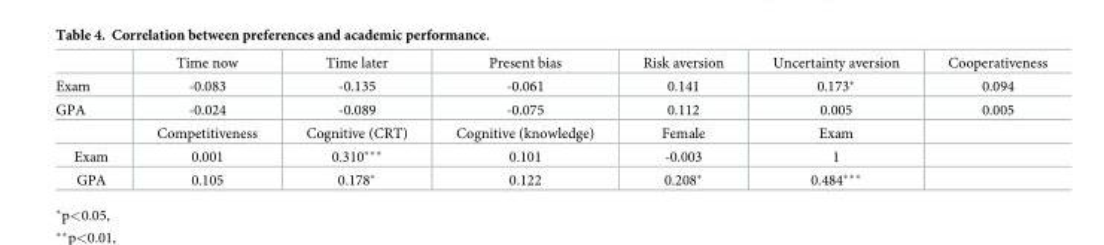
<table><thead><tr><td></td><td>Time now</td><td>Time later</td><td>Present bias</td><td>Risk aversion</td><td>Uncertainty aversion</td><td>Cooperativeness</td></tr></thead><tbody><tr><td>Exam</td><td>-0.083</td><td>-0.135</td><td>-0.061</td><td>0.141</td><td>0.173*</td><td>0.094</td></tr><tr><td rowspan="2">GPA</td><td>-0.024</td><td>-0.089</td><td>-0.075</td><td>0.112</td><td>0.005</td><td>0.005</td></tr><tr><td>Competitiveness</td><td>Cognitive (CRT)</td><td>Cognitive (knowledge)</td><td>Female</td><td>Exam</td><td></td></tr><tr><td>Exam</td><td>0.001</td><td>0.310***</td><td>0.101</td><td>-0.003</td><td>1</td><td></td></tr><tr><td>GPA</td><td>0.105</td><td>0.178*</td><td>0.122</td><td>0.208*</td><td>0.484***</td><td></td></tr></tbody></table>